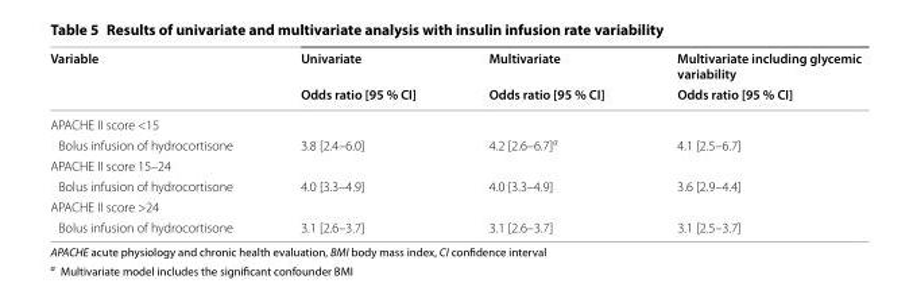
<table><thead><tr><td rowspan="2">Variable</td><td rowspan="2">Univariate Odds ratio [95 % CI]</td><td rowspan="2">Multivariate Odds ratio [95 % CI]</td><td rowspan="2">Multivariate including glycemic variability Odds ratio [95 % CI]</td></tr><tr></tr></thead><tbody><tr><td colspan="4">APACHE II score &lt;15</td></tr><tr><td>Bolus infusion of hydrocortisone</td><td>3.8 [2.4–6.0]</td><td>4.2 [2.6–6.7]<sup>a</sup></td><td>4.1 [2.5–6.7]</td></tr><tr><td colspan="4">APACHE II score 15–24</td></tr><tr><td>Bolus infusion of hydrocortisone</td><td>4.0 [3.3–4.9]</td><td>4.0 [3.3–4.9]</td><td>3.6 [2.9–4.4]</td></tr><tr><td colspan="4">APACHE II score &gt;24</td></tr><tr><td>Bolus infusion of hydrocortisone</td><td>3.1 [2.6–3.7]</td><td>3.1 [2.6–3.7]</td><td>3.1 [2.5–3.7]</td></tr></tbody></table>